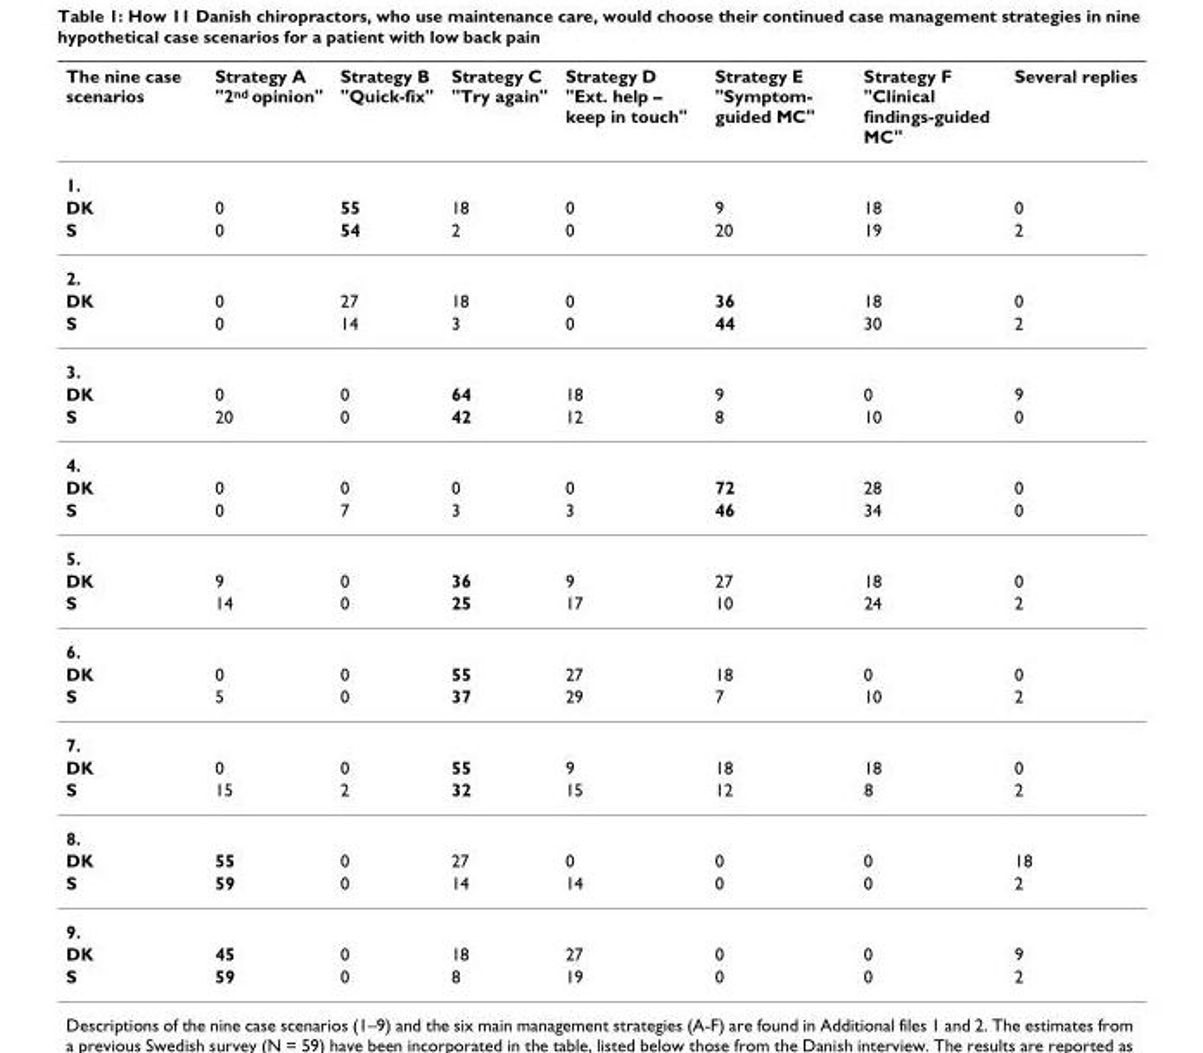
<table><thead><tr><td>The nine case scenarios</td><td>Strategy A &quot;2<sup>nd</sup> opinion&quot;</td><td>Strategy B &quot;Quick-fix&quot;</td><td>Strategy C &quot;Try again&quot;</td><td>Strategy D &quot;Ext. help – keep in touch&quot;</td><td>Strategy E &quot;Symptom- guided MC&quot;</td><td>Strategy F &quot;Clinical findings-guided MC&quot;</td><td>Several replies</td></tr></thead><tbody><tr><td colspan="8">1.</td></tr><tr><td>DK</td><td>0</td><td>55</td><td>18</td><td>0</td><td>9</td><td>18</td><td>0</td></tr><tr><td>S</td><td>0</td><td>54</td><td>2</td><td>0</td><td>20</td><td>19</td><td>2</td></tr><tr><td colspan="8">2.</td></tr><tr><td>DK</td><td>0</td><td>27</td><td>18</td><td>0</td><td>36</td><td>18</td><td>0</td></tr><tr><td>S</td><td>0</td><td>14</td><td>3</td><td>0</td><td>44</td><td>30</td><td>2</td></tr><tr><td colspan="8">3.</td></tr><tr><td>DK</td><td>0</td><td>0</td><td>64</td><td>18</td><td>9</td><td>0</td><td>9</td></tr><tr><td>S</td><td>20</td><td>0</td><td>42</td><td>12</td><td>8</td><td>10</td><td>0</td></tr><tr><td colspan="8">4.</td></tr><tr><td>DK</td><td>0</td><td>0</td><td>0</td><td>0</td><td>72</td><td>28</td><td>0</td></tr><tr><td>S</td><td>0</td><td>7</td><td>3</td><td>3</td><td>46</td><td>34</td><td>0</td></tr><tr><td colspan="8">5.</td></tr><tr><td>DK</td><td>9</td><td>0</td><td>36</td><td>9</td><td>27</td><td>18</td><td>0</td></tr><tr><td>S</td><td>14</td><td>0</td><td>25</td><td>17</td><td>10</td><td>24</td><td>2</td></tr><tr><td colspan="8">6.</td></tr><tr><td>DK</td><td>0</td><td>0</td><td>55</td><td>27</td><td>18</td><td>0</td><td>0</td></tr><tr><td>S</td><td>5</td><td>0</td><td>37</td><td>29</td><td>7</td><td>10</td><td>2</td></tr><tr><td colspan="8">7.</td></tr><tr><td>DK</td><td>0</td><td>0</td><td>55</td><td>9</td><td>18</td><td>18</td><td>0</td></tr><tr><td>S</td><td>15</td><td>2</td><td>32</td><td>15</td><td>12</td><td>8</td><td>2</td></tr><tr><td colspan="8">8.</td></tr><tr><td>DK</td><td>55</td><td>0</td><td>27</td><td>0</td><td>0</td><td>0</td><td>18</td></tr><tr><td>S</td><td>59</td><td>0</td><td>14</td><td>14</td><td>0</td><td>0</td><td>2</td></tr><tr><td colspan="8">9.</td></tr><tr><td>DK</td><td>45</td><td>0</td><td>18</td><td>27</td><td>0</td><td>0</td><td>9</td></tr><tr><td>S</td><td>59</td><td>0</td><td>8</td><td>19</td><td>0</td><td>0</td><td>2</td></tr></tbody></table>